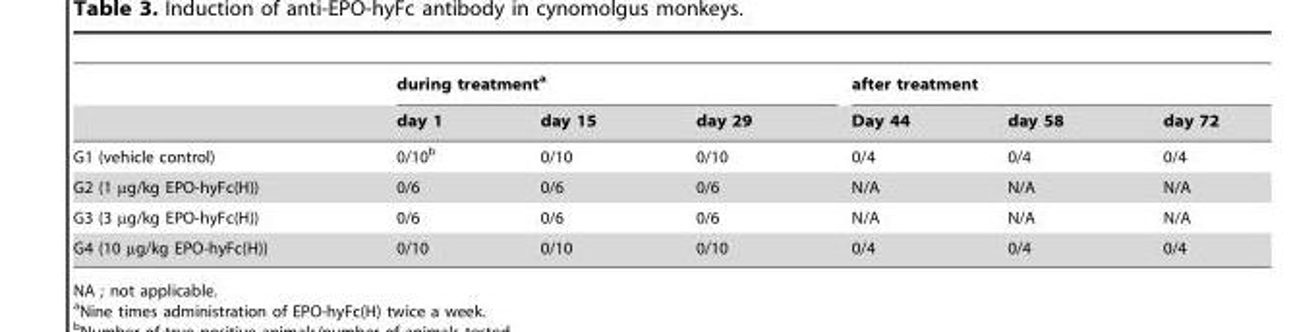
<table><thead><tr><td rowspan="2"></td><td colspan="3">during treatment<sup>a</sup></td><td colspan="3">after treatment</td></tr><tr><td>day 1</td><td>day 15</td><td>day 29</td><td>Day 44</td><td>day 58</td><td>day 72</td></tr></thead><tbody><tr><td>G1 (vehicle control)</td><td>0/10<sup>b</sup></td><td>0/10</td><td>0/10</td><td>0/4</td><td>0/4</td><td>0/4</td></tr><tr><td>G2 (1 µg/kg EPO-hyFc(H))</td><td>0/6</td><td>0/6</td><td>0/6</td><td>N/A</td><td>N/A</td><td>N/A</td></tr><tr><td>G3 (3 µg/kg EPO-hyFc(H))</td><td>0/6</td><td>0/6</td><td>0/6</td><td>N/A</td><td>N/A</td><td>N/A</td></tr><tr><td>G4 (10 µg/kg EPO-hyFc(H))</td><td>0/10</td><td>0/10</td><td>0/10</td><td>0/4</td><td>0/4</td><td>0/4</td></tr></tbody></table>